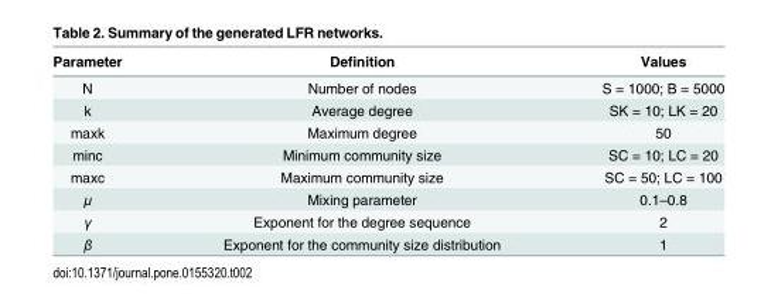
<table><thead><tr><td>Parameter</td><td>Definition</td><td>Values</td></tr></thead><tbody><tr><td>N</td><td>Number of nodes</td><td>S = 1000; B = 5000</td></tr><tr><td>k</td><td>Average degree</td><td>SK = 10; LK = 20</td></tr><tr><td>maxk</td><td>Maximum degree</td><td>50</td></tr><tr><td>minc</td><td>Minimum community size</td><td>SC = 10; LC = 20</td></tr><tr><td>maxc</td><td>Maximum community size</td><td>SC = 50; LC = 100</td></tr><tr><td>μ</td><td>Mixing parameter</td><td>0.1–0.8</td></tr><tr><td>γ</td><td>Exponent for the degree sequence</td><td>2</td></tr><tr><td>β</td><td>Exponent for the community size distribution</td><td>1</td></tr></tbody></table>